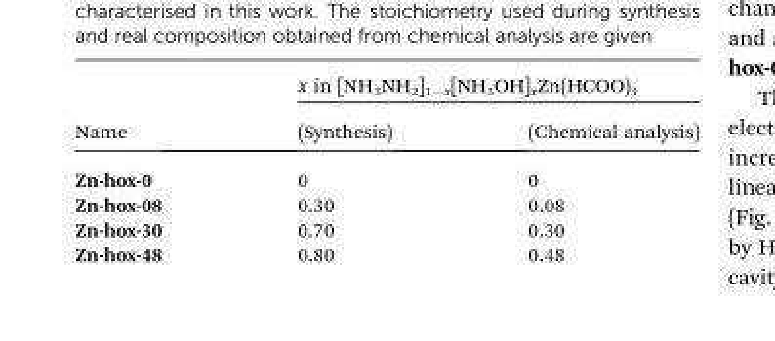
<table><thead><tr><td rowspan="2">Name</td><td colspan="2">x in [NH<sub>3</sub>NH<sub>2</sub>]<sub>1–x</sub>[NH<sub>3</sub>OH]<sub>x</sub>Zn(HCOO)<sub>3</sub></td></tr><tr><td>(Synthesis)</td><td>(Chemical analysis)</td></tr></thead><tbody><tr><td>Zn-hox-0</td><td>0</td><td>0</td></tr><tr><td>Zn-hox-08</td><td>0.30</td><td>0.08</td></tr><tr><td>Zn-hox-30</td><td>0.70</td><td>0.30</td></tr><tr><td>Zn-hox-48</td><td>0.80</td><td>0.48</td></tr></tbody></table>